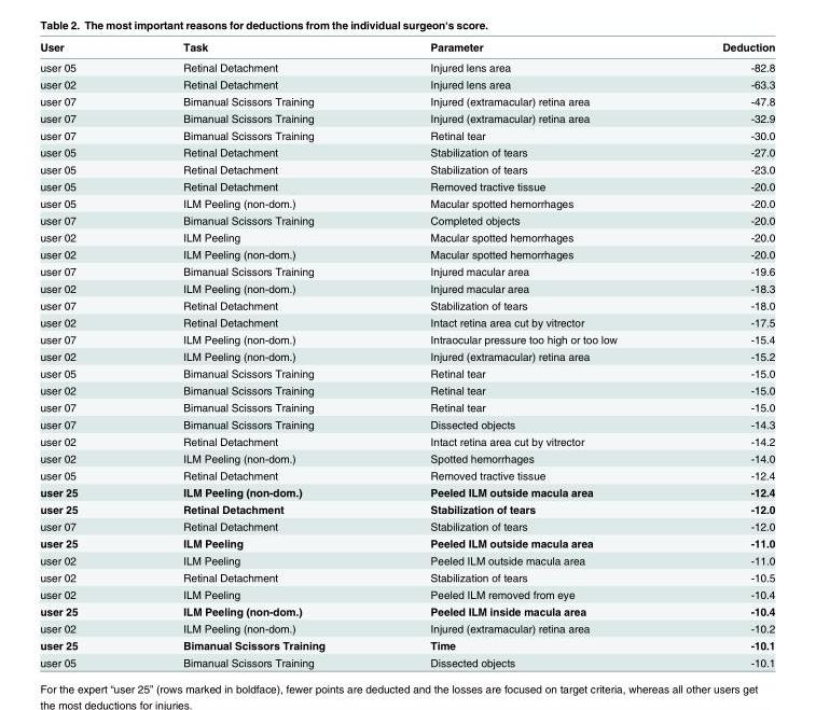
<table><thead><tr><td>User</td><td>Task</td><td>Parameter</td><td>Deduction</td></tr></thead><tbody><tr><td>user 05</td><td>Retinal Detachment</td><td>Injured lens area</td><td>-82.8</td></tr><tr><td>user 02</td><td>Retinal Detachment</td><td>Injured lens area</td><td>-63.3</td></tr><tr><td>user 07</td><td>Bimanual Scissors Training</td><td>Injured (extramacular) retina area</td><td>-47.8</td></tr><tr><td>user 07</td><td>Bimanual Scissors Training</td><td>Injured (extramacular) retina area</td><td>-32.9</td></tr><tr><td>user 07</td><td>Bimanual Scissors Training</td><td>Retinal tear</td><td>-30.0</td></tr><tr><td>user 05</td><td>Retinal Detachment</td><td>Stabilization of tears</td><td>-27.0</td></tr><tr><td>user 05</td><td>Retinal Detachment</td><td>Stabilization of tears</td><td>-23.0</td></tr><tr><td>user 05</td><td>Retinal Detachment</td><td>Removed tractive tissue</td><td>-20.0</td></tr><tr><td>user 05</td><td>ILM Peeling (non-dom.)</td><td>Macular spotted hemorrhages</td><td>-20.0</td></tr><tr><td>user 07</td><td>Bimanual Scissors Training</td><td>Completed objects</td><td>-20.0</td></tr><tr><td>user 02</td><td>ILM Peeling</td><td>Macular spotted hemorrhages</td><td>-20.0</td></tr><tr><td>user 02</td><td>ILM Peeling (non-dom.)</td><td>Macular spotted hemorrhages</td><td>-20.0</td></tr><tr><td>user 07</td><td>Bimanual Scissors Training</td><td>Injured macular area</td><td>-19.6</td></tr><tr><td>user 02</td><td>ILM Peeling (non-dom.)</td><td>Injured macular area</td><td>-18.3</td></tr><tr><td>user 07</td><td>Retinal Detachment</td><td>Stabilization of tears</td><td>-18.0</td></tr><tr><td>user 02</td><td>Retinal Detachment</td><td>Intact retina area cut by vitrector</td><td>-17.5</td></tr><tr><td>user 07</td><td>ILM Peeling (non-dom.)</td><td>Intraocular pressure too high or too low</td><td>-15.4</td></tr><tr><td>user 02</td><td>ILM Peeling (non-dom.)</td><td>Injured (extramacular) retina area</td><td>-15.2</td></tr><tr><td>user 05</td><td>Bimanual Scissors Training</td><td>Retinal tear</td><td>-15.0</td></tr><tr><td>user 02</td><td>Bimanual Scissors Training</td><td>Retinal tear</td><td>-15.0</td></tr><tr><td>user 07</td><td>Bimanual Scissors Training</td><td>Retinal tear</td><td>-15.0</td></tr><tr><td>user 07</td><td>Bimanual Scissors Training</td><td>Dissected objects</td><td>-14.3</td></tr><tr><td>user 02</td><td>Retinal Detachment</td><td>Intact retina area cut by vitrector</td><td>-14.2</td></tr><tr><td>user 02</td><td>ILM Peeling (non-dom.)</td><td>Spotted hemorrhages</td><td>-14.0</td></tr><tr><td>user 05</td><td>Retinal Detachment</td><td>Removed tractive tissue</td><td>-12.4</td></tr><tr><td>user 25</td><td>ILM Peeling (non-dom.)</td><td>Peeled ILM outside macula area</td><td>-12.4</td></tr><tr><td>user 25</td><td>Retinal Detachment</td><td>Stabilization of tears</td><td>-12.0</td></tr><tr><td>user 07</td><td>Retinal Detachment</td><td>Stabilization of tears</td><td>-12.0</td></tr><tr><td>user 25</td><td>ILM Peeling</td><td>Peeled ILM outside macula area</td><td>-11.0</td></tr><tr><td>user 02</td><td>ILM Peeling</td><td>Peeled ILM outside macula area</td><td>-11.0</td></tr><tr><td>user 02</td><td>Retinal Detachment</td><td>Stabilization of tears</td><td>-10.5</td></tr><tr><td>user 02</td><td>ILM Peeling</td><td>Peeled ILM removed from eye</td><td>-10.4</td></tr><tr><td>user 25</td><td>ILM Peeling (non-dom.)</td><td>Peeled ILM inside macula area</td><td>-10.4</td></tr><tr><td>user 02</td><td>ILM Peeling (non-dom.)</td><td>Injured (extramacular) retina area</td><td>-10.2</td></tr><tr><td>user 25</td><td>Bimanual Scissors Training</td><td>Time</td><td>-10.1</td></tr><tr><td>user 05</td><td>Bimanual Scissors Training</td><td>Dissected objects</td><td>-10.1</td></tr></tbody></table>